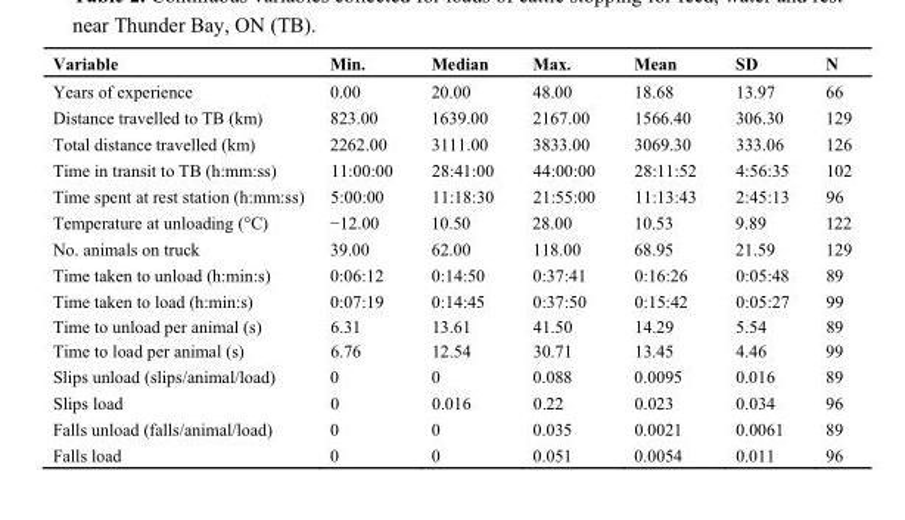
<table><thead><tr><td>Variable</td><td>Min.</td><td>Median</td><td>Max.</td><td>Mean</td><td>SD</td><td>N</td></tr></thead><tbody><tr><td>Years of experience</td><td>0.00</td><td>20.00</td><td>48.00</td><td>18.68</td><td>13.97</td><td>66</td></tr><tr><td>Distance travelled to TB (km)</td><td>823.00</td><td>1639.00</td><td>2167.00</td><td>1566.40</td><td>306.30</td><td>129</td></tr><tr><td>Total distance travelled (km)</td><td>2262.00</td><td>3111.00</td><td>3833.00</td><td>3069.30</td><td>333.06</td><td>126</td></tr><tr><td>Time in transit to TB (h:mm:ss)</td><td>11:00:00</td><td>28:41:00</td><td>44:00:00</td><td>28:11:52</td><td>4:56:35</td><td>102</td></tr><tr><td>Time spent at rest station (h:mm:ss)</td><td>5:00:00</td><td>11:18:30</td><td>21:55:00</td><td>11:13:43</td><td>2:45:13</td><td>96</td></tr><tr><td>Temperature at unloading (°C)</td><td>−12.00</td><td>10.50</td><td>28.00</td><td>10.53</td><td>9.89</td><td>122</td></tr><tr><td>No. animals on truck</td><td>39.00</td><td>62.00</td><td>118.00</td><td>68.95</td><td>21.59</td><td>129</td></tr><tr><td>Time taken to unload (h:min:s)</td><td>0:06:12</td><td>0:14:50</td><td>0:37:41</td><td>0:16:26</td><td>0:05:48</td><td>89</td></tr><tr><td>Time taken to load (h:min:s)</td><td>0:07:19</td><td>0:14:45</td><td>0:37:50</td><td>0:15:42</td><td>0:05:27</td><td>99</td></tr><tr><td>Time to unload per animal (s)</td><td>6.31</td><td>13.61</td><td>41.50</td><td>14.29</td><td>5.54</td><td>89</td></tr><tr><td>Time to load per animal (s)</td><td>6.76</td><td>12.54</td><td>30.71</td><td>13.45</td><td>4.46</td><td>99</td></tr><tr><td>Slips unload (slips/animal/load)</td><td>0</td><td>0</td><td>0.088</td><td>0.0095</td><td>0.016</td><td>89</td></tr><tr><td>Slips load</td><td>0</td><td>0.016</td><td>0.22</td><td>0.023</td><td>0.034</td><td>96</td></tr><tr><td>Falls unload (falls/animal/load)</td><td>0</td><td>0</td><td>0.035</td><td>0.0021</td><td>0.0061</td><td>89</td></tr><tr><td>Falls load</td><td>0</td><td>0</td><td>0.051</td><td>0.0054</td><td>0.011</td><td>96</td></tr></tbody></table>